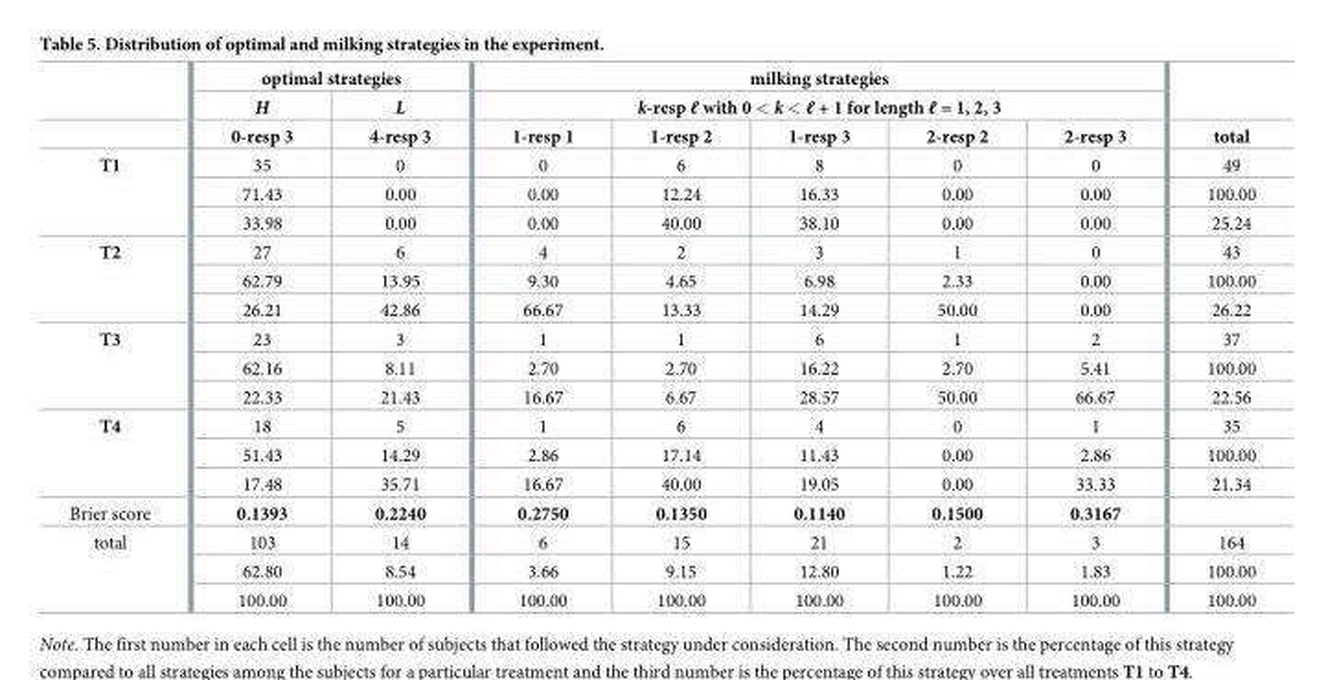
<table><thead><tr><td rowspan="3"></td><td colspan="2">optimal strategies</td><td rowspan="2" colspan="5">milking strategies k-resp ℓ with 0 &lt; k &lt; ℓ + 1 for length ℓ = 1, 2, 3</td><td rowspan="3">total</td></tr><tr><td rowspan="2">H 0-resp 3</td><td rowspan="2">L 4-resp 3</td></tr><tr><td>1-resp 1</td><td>1-resp 2</td><td>1-resp 3</td><td>2-resp 2</td><td>2-resp 3</td></tr></thead><tbody><tr><td rowspan="3">T1</td><td>35</td><td>0</td><td>0</td><td>6</td><td>8</td><td>0</td><td>0</td><td>49</td></tr><tr><td>71.43</td><td>0.00</td><td>0.00</td><td>12.24</td><td>16.33</td><td>0.00</td><td>0.00</td><td>100.00</td></tr><tr><td>33.98</td><td>0.00</td><td>0.00</td><td>40.00</td><td>38.10</td><td>0.00</td><td>0.00</td><td>25.24</td></tr><tr><td rowspan="3">T2</td><td>27</td><td>6</td><td>4</td><td>2</td><td>3</td><td>1</td><td>0</td><td>43</td></tr><tr><td>62.79</td><td>13.95</td><td>9.30</td><td>4.65</td><td>6.98</td><td>2.33</td><td>0.00</td><td>100.00</td></tr><tr><td>26.21</td><td>42.86</td><td>66.67</td><td>13.33</td><td>14.29</td><td>50.00</td><td>0.00</td><td>26.22</td></tr><tr><td rowspan="3">T3</td><td>23</td><td>3</td><td>1</td><td>1</td><td>6</td><td>1</td><td>2</td><td>37</td></tr><tr><td>62.16</td><td>8.11</td><td>2.70</td><td>2.70</td><td>16.22</td><td>2.70</td><td>5.41</td><td>100.00</td></tr><tr><td>22.33</td><td>21.43</td><td>16.67</td><td>6.67</td><td>28.57</td><td>50.00</td><td>66.67</td><td>22.56</td></tr><tr><td rowspan="3">T4</td><td>18</td><td>5</td><td>1</td><td>6</td><td>4</td><td>0</td><td>1</td><td>35</td></tr><tr><td>51.43</td><td>14.29</td><td>2.86</td><td>17.14</td><td>11.43</td><td>0.00</td><td>2.86</td><td>100.00</td></tr><tr><td>17.48</td><td>35.71</td><td>16.67</td><td>40.00</td><td>19.05</td><td>0.00</td><td>33.33</td><td>21.34</td></tr><tr><td>Brier score</td><td>0.1393</td><td>0.2240</td><td>0.2750</td><td>0.1350</td><td>0.1140</td><td>0.1500</td><td>0.3167</td><td></td></tr><tr><td rowspan="3">total</td><td>103</td><td>14</td><td>6</td><td>15</td><td>21</td><td>2</td><td>3</td><td>164</td></tr><tr><td>62.80</td><td>8.54</td><td>3.66</td><td>9.15</td><td>12.80</td><td>1.22</td><td>1.83</td><td>100.00</td></tr><tr><td>100.00</td><td>100.00</td><td>100.00</td><td>100.00</td><td>100.00</td><td>100.00</td><td>100.00</td><td>100.00</td></tr></tbody></table>